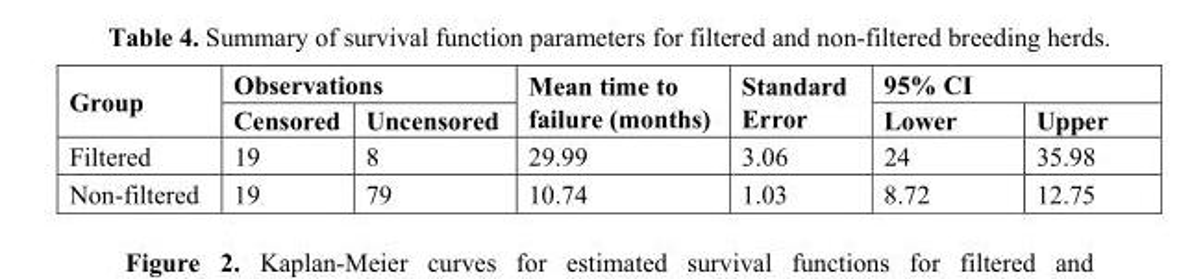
<table><thead><tr><td rowspan="2">Group</td><td colspan="2">Observations</td><td rowspan="2">Mean time to failure (months)</td><td rowspan="2">Standard Error</td><td colspan="2">95% CI</td></tr><tr><td>Censored</td><td>Uncensored</td><td>Lower</td><td>Upper</td></tr></thead><tbody><tr><td>Filtered</td><td>19</td><td>8</td><td>29.99</td><td>3.06</td><td>24</td><td>35.98</td></tr><tr><td>Non-filtered</td><td>19</td><td>79</td><td>10.74</td><td>1.03</td><td>8.72</td><td>12.75</td></tr></tbody></table>